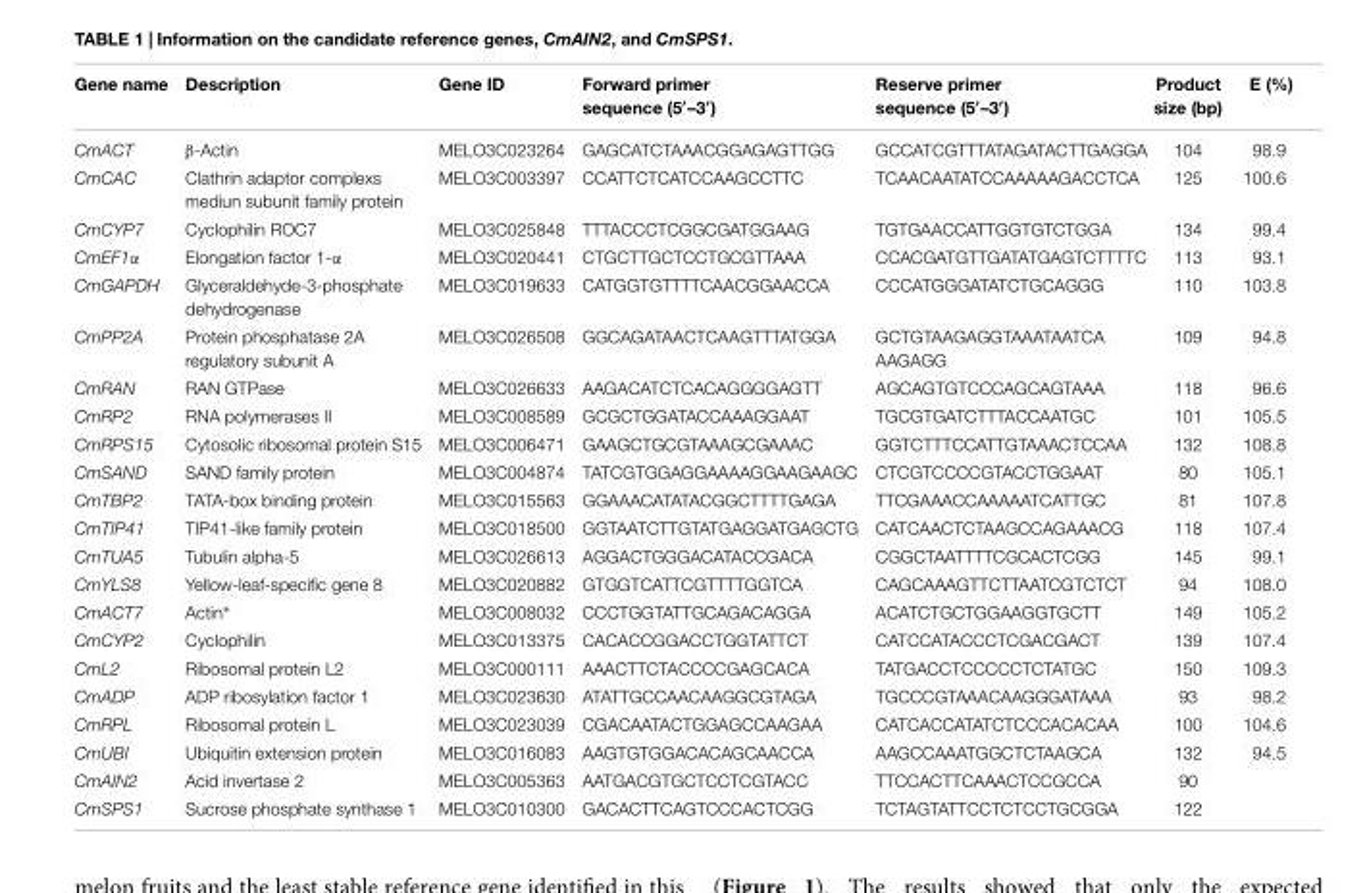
<table><thead><tr><td>Gene name</td><td>Description</td><td>Gene ID</td><td>Forward primer sequence (5′–3′)</td><td>Reserve primer sequence (5′–3′)</td><td>Product size (bp)</td><td>E (%)</td></tr></thead><tbody><tr><td>CmACT</td><td>β-Actin</td><td>MELO3C023264</td><td>GAGCATCTAAACGGAGAGTTGG</td><td>GCCATCGTTTATAGATACTTGAGGA</td><td>104</td><td>98.9</td></tr><tr><td>CmCAC</td><td>Clathrin adaptor complexs mediun subunit family protein</td><td>MELO3C003397</td><td>CCATTCTCATCCAAGCCTTC</td><td>TCAACAATATCCAAAAAGACCTCA</td><td>125</td><td>100.6</td></tr><tr><td>CmCYP7</td><td>Cyclophilin ROC7</td><td>MELO3C025848</td><td>TTTACCCTCGGCGATGGAAG</td><td>TGTGAACCATTGGTGTCTGGA</td><td>134</td><td>99.4</td></tr><tr><td>CmEF1α</td><td>Elongation factor 1-α</td><td>MELO3C020441</td><td>CTGCTTGCTCCTGCGTTAAA</td><td>CCACGATGTTGATATGAGTCTTTTC</td><td>113</td><td>93.1</td></tr><tr><td>CmGAPDH</td><td>Glyceraldehyde-3-phosphate dehydrogenase</td><td>MELO3C019633</td><td>CATGGTGTTTTCAACGGAACCA</td><td>CCCATGGGATATCTGCAGGG</td><td>110</td><td>103.8</td></tr><tr><td>CmPP2A</td><td>Protein phosphatase 2A regulatory subunit A</td><td>MELO3C026508</td><td>GGCAGATAACTCAAGTTTATGGA</td><td>GCTGTAAGAGGTAAATAATCA AAGAGG</td><td>109</td><td>94.8</td></tr><tr><td>CmRAN</td><td>RAN GTPase</td><td>MELO3C026633</td><td>AAGACATCTCACAGGGGAGTT</td><td>AGCAGTGTCCCAGCAGTAAA</td><td>118</td><td>96.6</td></tr><tr><td>CmRP2</td><td>RNA polymerases II</td><td>MELO3C008589</td><td>GCGCTGGATACCAAAGGAAT</td><td>TGCGTGATCTTTACCAATGC</td><td>101</td><td>105.5</td></tr><tr><td>CmRPS15</td><td>Cytosolic ribosomal protein S15</td><td>MELO3C006471</td><td>GAAGCTGCGTAAAGCGAAAC</td><td>GGTCTTTCCATTGTAAACTCCAA</td><td>132</td><td>108.8</td></tr><tr><td>CmSAND</td><td>SAND family protein</td><td>MELO3C004874</td><td>TATCGTGGAGGAAAAGGAAGAAGC</td><td>CTCGTCCCCGTACCTGGAAT</td><td>80</td><td>105.1</td></tr><tr><td>CmTBP2</td><td>TATA-box binding protein</td><td>MELO3C015563</td><td>GGAAACATATACGGCTTTTGAGA</td><td>TTCGAAACCAAAAATCATTGC</td><td>81</td><td>107.8</td></tr><tr><td>CmTIP41</td><td>TIP41-like family protein</td><td>MELO3C018500</td><td>GGTAATCTTGTATGAGGATGAGCTG</td><td>CATCAACTCTAAGCCAGAAACG</td><td>118</td><td>107.4</td></tr><tr><td>CmTUA5</td><td>Tubulin alpha-5</td><td>MELO3C026613</td><td>AGGACTGGGACATACCGACA</td><td>CGGCTAATTTTCGCACTCGG</td><td>145</td><td>99.1</td></tr><tr><td>CmYLS8</td><td>Yellow-leaf-specific gene 8</td><td>MELO3C020882</td><td>GTGGTCATTCGTTTTGGTCA</td><td>CAGCAAAGTTCTTAATCGTCTCT</td><td>94</td><td>108.0</td></tr><tr><td>CmACT7</td><td>Actin∗</td><td>MELO3C008032</td><td>CCCTGGTATTGCAGACAGGA</td><td>ACATCTGCTGGAAGGTGCTT</td><td>149</td><td>105.2</td></tr><tr><td>CmCYP2</td><td>Cyclophilin</td><td>MELO3C013375</td><td>CACACCGGACCTGGTATTCT</td><td>CATCCATACCCTCGACGACT</td><td>139</td><td>107.4</td></tr><tr><td>CmL2</td><td>Ribosomal protein L2</td><td>MELO3C000111</td><td>AAACTTCTACCCCGAGCACA</td><td>TATGACCTCCCCCTCTATGC</td><td>150</td><td>109.3</td></tr><tr><td>CmADP</td><td>ADP ribosylation factor 1</td><td>MELO3C023630</td><td>ATATTGCCAACAAGGCGTAGA</td><td>TGCCCGTAAACAAGGGATAAA</td><td>93</td><td>98.2</td></tr><tr><td>CmRPL</td><td>Ribosomal protein L</td><td>MELO3C023039</td><td>CGACAATACTGGAGCCAAGAA</td><td>CATCACCATATCTCCCACACAA</td><td>100</td><td>104.6</td></tr><tr><td>CmUBI</td><td>Ubiquitin extension protein</td><td>MELO3C016083</td><td>AAGTGTGGACACAGCAACCA</td><td>AAGCCAAATGGCTCTAAGCA</td><td>132</td><td>94.5</td></tr><tr><td>CmAIN2</td><td>Acid invertase 2</td><td>MELO3C005363</td><td>AATGACGTGCTCCTCGTACC</td><td>TTCCACTTCAAACTCCGCCA</td><td>90</td><td></td></tr><tr><td>CmSPS1</td><td>Sucrose phosphate synthase 1</td><td>MELO3C010300</td><td>GACACTTCAGTCCCACTCGG</td><td>TCTAGTATTCCTCTCCTGCGGA</td><td>122</td><td></td></tr></tbody></table>